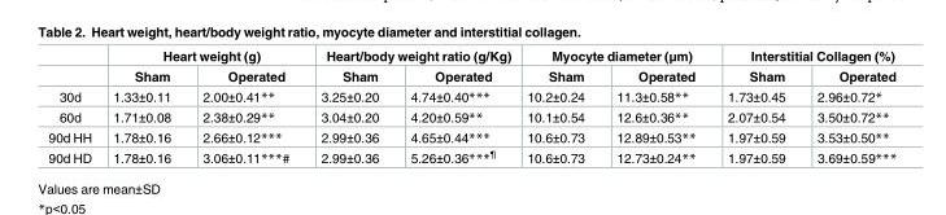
<table><thead><tr><td rowspan="2"></td><td colspan="2">Heart weight (g)</td><td colspan="2">Heart/body weight ratio (g/Kg)</td><td colspan="2">Myocyte diameter (μm)</td><td colspan="2">Interstitial Collagen (%)</td></tr><tr><td>Sham</td><td>Operated</td><td>Sham</td><td>Operated</td><td>Sham</td><td>Operated</td><td>Sham</td><td>Operated</td></tr></thead><tbody><tr><td>30d</td><td>1.33±0.11</td><td>2.00±0.41**</td><td>3.25±0.20</td><td>4.74±0.40***</td><td>10.2±0.24</td><td>11.3±0.58**</td><td>1.73±0.45</td><td>2.96±0.72*</td></tr><tr><td>60d</td><td>1.71±0.08</td><td>2.38±0.29**</td><td>3.04±0.20</td><td>4.20±0.59**</td><td>10.1±0.54</td><td>12.6±0.36**</td><td>2.07±0.54</td><td>3.50±0.72**</td></tr><tr><td>90d HH</td><td>1.78±0.16</td><td>2.66±0.12***</td><td>2.99±0.36</td><td>4.65±0.44***</td><td>10.6±0.73</td><td>12.89±0.53**</td><td>1.97±0.59</td><td>3.53±0.50**</td></tr><tr><td>90d HD</td><td>1.78±0.16</td><td>3.06±0.11***#</td><td>2.99±0.36</td><td>5.26±0.36***<sup>¶</sup></td><td>10.6±0.73</td><td>12.73±0.24**</td><td>1.97±0.59</td><td>3.69±0.59***</td></tr></tbody></table>